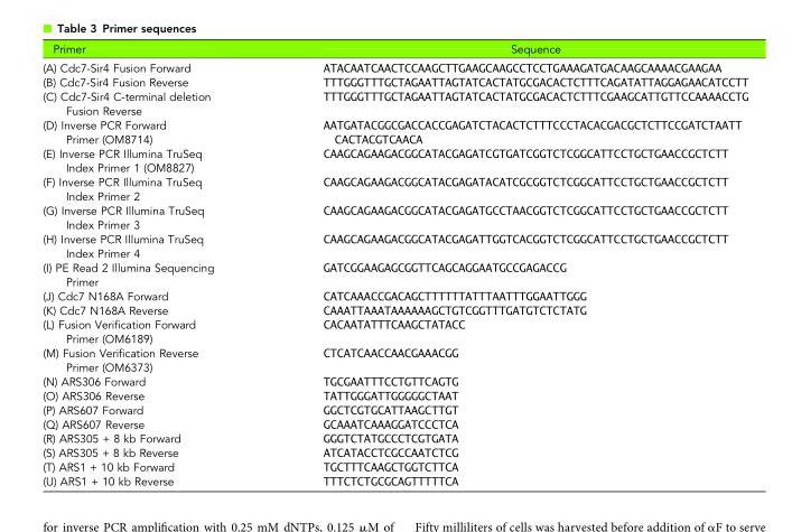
<table><thead><tr><td>Primer</td><td>Sequence</td></tr></thead><tbody><tr><td>(A) Cdc7-Sir4 Fusion Forward</td><td>ATACAATCAACTCCAAGCTTGAAGCAAGCCTCCTGAAAGATGACAAGCAAAACGAAGAA</td></tr><tr><td>(B) Cdc7-Sir4 Fusion Reverse</td><td>TTTGGGTTTGCTAGAATTAGTATCACTATGCGACACTCTTTCAGATATTAGGAGAACATCCTT</td></tr><tr><td>(C) Cdc7-Sir4 C-terminal deletion Fusion Reverse</td><td>TTTGGGTTTGCTAGAATTAGTATCACTATGCGACACTCTTTCGAAGCATTGTTCCAAAACCTG</td></tr><tr><td>(D) Inverse PCR Forward Primer (OM8714)</td><td>AATGATACGGCGACCACCGAGATCTACACTCTTTCCCTACACGACGCTCTTCCGATCTAATT CACTACGTCAACA</td></tr><tr><td>(E) Inverse PCR Illumina TruSeq Index Primer 1 (OM8827)</td><td>CAAGCAGAAGACGGCATACGAGATCGTGATCGGTCTCGGCATTCCTGCTGAACCGCTCTT</td></tr><tr><td>(F) Inverse PCR Illumina TruSeq Index Primer 2</td><td>CAAGCAGAAGACGGCATACGAGATACATCGCGGTCTCGGCATTCCTGCTGAACCGCTCTT</td></tr><tr><td>(G) Inverse PCR Illumina TruSeq Index Primer 3</td><td>CAAGCAGAAGACGGCATACGAGATGCCTAACGGTCTCGGCATTCCTGCTGAACCGCTCTT</td></tr><tr><td>(H) Inverse PCR Illumina TruSeq Index Primer 4</td><td>CAAGCAGAAGACGGCATACGAGATTGGTCACGGTCTCGGCATTCCTGCTGAACCGCTCTT</td></tr><tr><td>(I) PE Read 2 Illumina Sequencing Primer</td><td>GATCGGAAGAGCGGTTCAGCAGGAATGCCGAGACCG</td></tr><tr><td>(J) Cdc7 N168A Forward</td><td>CATCAAACCGACAGCTTTTTTATTTAATTTGGAATTGGG</td></tr><tr><td>(K) Cdc7 N168A Reverse</td><td>CAAATTAAATAAAAAAGCTGTCGGTTTGATGTCTCTATG</td></tr><tr><td>(L) Fusion Verification Forward Primer (OM6189)</td><td>CACAATATTTCAAGCTATACC</td></tr><tr><td>(M) Fusion Verification Reverse Primer (OM6373)</td><td>CTCATCAACCAACGAAACGG</td></tr><tr><td>(N) ARS306 Forward</td><td>TGCGAATTTCCTGTTCAGTG</td></tr><tr><td>(O) ARS306 Reverse</td><td>TATTGGGATTGGGGGCTAAT</td></tr><tr><td>(P) ARS607 Forward</td><td>GGCTCGTGCATTAAGCTTGT</td></tr><tr><td>(Q) ARS607 Reverse</td><td>GCAAATCAAAGGATCCCTCA</td></tr><tr><td>(R) ARS305 + 8 kb Forward</td><td>GGGTCTATGCCCTCGTGATA</td></tr><tr><td>(S) ARS305 + 8 kb Reverse</td><td>ATCATACCTCGCCAATCTCG</td></tr><tr><td>(T) ARS1 + 10 kb Forward</td><td>TGCTTTCAAGCTGGTCTTCA</td></tr><tr><td>(U) ARS1 + 10 kb Reverse</td><td>TTTCTCTGCGCAGTTTTTCA</td></tr></tbody></table>